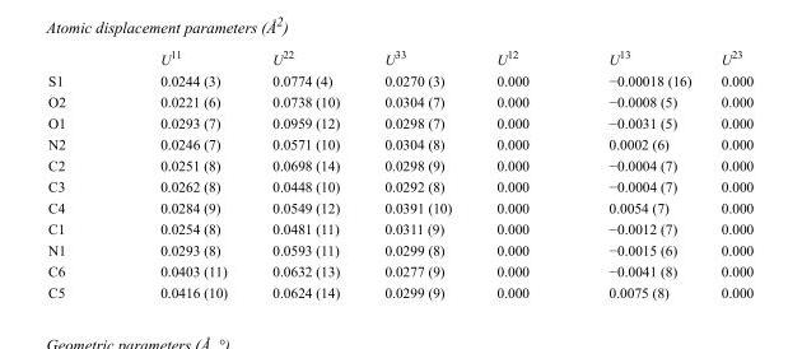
<table><thead><tr><td></td><td>U<sup>11</sup></td><td>U<sup>22</sup></td><td>U<sup>33</sup></td><td>U<sup>12</sup></td><td>U<sup>13</sup></td><td>U<sup>23</sup></td></tr></thead><tbody><tr><td>S1</td><td>0.0244 (3)</td><td>0.0774 (4)</td><td>0.0270 (3)</td><td>0.000</td><td>−0.00018 (16)</td><td>0.000</td></tr><tr><td>O2</td><td>0.0221 (6)</td><td>0.0738 (10)</td><td>0.0304 (7)</td><td>0.000</td><td>−0.0008 (5)</td><td>0.000</td></tr><tr><td>O1</td><td>0.0293 (7)</td><td>0.0959 (12)</td><td>0.0298 (7)</td><td>0.000</td><td>−0.0031 (5)</td><td>0.000</td></tr><tr><td>N2</td><td>0.0246 (7)</td><td>0.0571 (10)</td><td>0.0304 (8)</td><td>0.000</td><td>0.0002 (6)</td><td>0.000</td></tr><tr><td>C2</td><td>0.0251 (8)</td><td>0.0698 (14)</td><td>0.0298 (9)</td><td>0.000</td><td>−0.0004 (7)</td><td>0.000</td></tr><tr><td>C3</td><td>0.0262 (8)</td><td>0.0448 (10)</td><td>0.0292 (8)</td><td>0.000</td><td>−0.0004 (7)</td><td>0.000</td></tr><tr><td>C4</td><td>0.0284 (9)</td><td>0.0549 (12)</td><td>0.0391 (10)</td><td>0.000</td><td>0.0054 (7)</td><td>0.000</td></tr><tr><td>C1</td><td>0.0254 (8)</td><td>0.0481 (11)</td><td>0.0311 (9)</td><td>0.000</td><td>−0.0012 (7)</td><td>0.000</td></tr><tr><td>N1</td><td>0.0293 (8)</td><td>0.0593 (11)</td><td>0.0299 (8)</td><td>0.000</td><td>−0.0015 (6)</td><td>0.000</td></tr><tr><td>C6</td><td>0.0403 (11)</td><td>0.0632 (13)</td><td>0.0277 (9)</td><td>0.000</td><td>−0.0041 (8)</td><td>0.000</td></tr><tr><td>C5</td><td>0.0416 (10)</td><td>0.0624 (14)</td><td>0.0299 (9)</td><td>0.000</td><td>0.0075 (8)</td><td>0.000</td></tr></tbody></table>